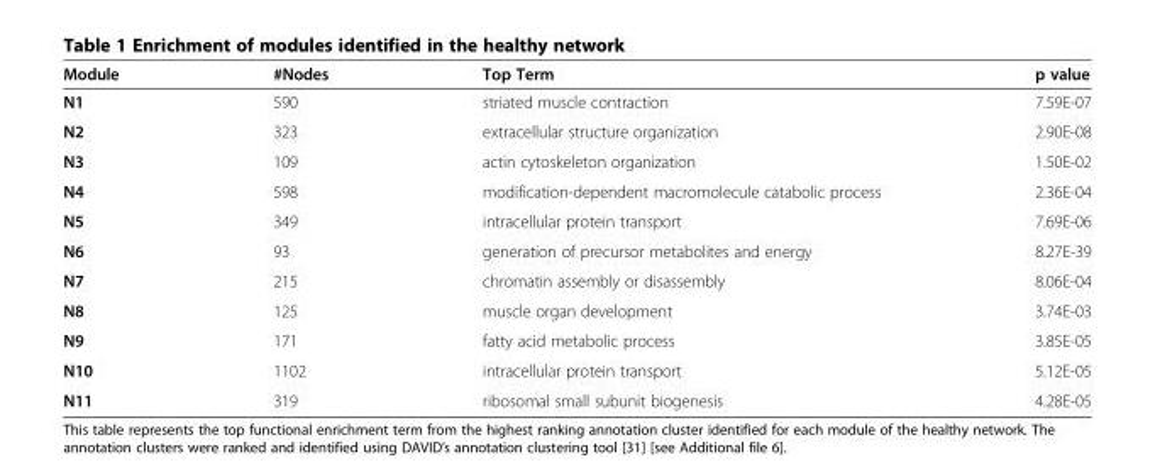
<table><thead><tr><td>Module</td><td>#Nodes</td><td>Top Term</td><td>p value</td></tr></thead><tbody><tr><td>N1</td><td>590</td><td>striated muscle contraction</td><td>7.59E-07</td></tr><tr><td>N2</td><td>323</td><td>extracellular structure organization</td><td>2.90E-08</td></tr><tr><td>N3</td><td>109</td><td>actin cytoskeleton organization</td><td>1.50E-02</td></tr><tr><td>N4</td><td>598</td><td>modification-dependent macromolecule catabolic process</td><td>2.36E-04</td></tr><tr><td>N5</td><td>349</td><td>intracellular protein transport</td><td>7.69E-06</td></tr><tr><td>N6</td><td>93</td><td>generation of precursor metabolites and energy</td><td>8.27E-39</td></tr><tr><td>N7</td><td>215</td><td>chromatin assembly or disassembly</td><td>8.06E-04</td></tr><tr><td>N8</td><td>125</td><td>muscle organ development</td><td>3.74E-03</td></tr><tr><td>N9</td><td>171</td><td>fatty acid metabolic process</td><td>3.85E-05</td></tr><tr><td>N10</td><td>1102</td><td>intracellular protein transport</td><td>5.12E-05</td></tr><tr><td>N11</td><td>319</td><td>ribosomal small subunit biogenesis</td><td>4.28E-05</td></tr></tbody></table>